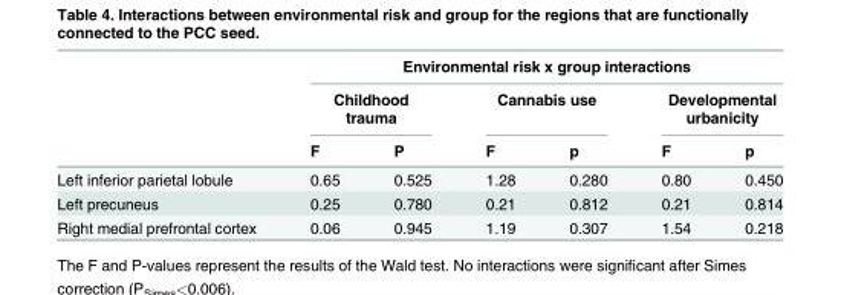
<table><thead><tr><td rowspan="3"></td><td colspan="6">Environmental risk x group interactions</td></tr><tr><td colspan="2">Childhood trauma</td><td colspan="2">Cannabis use</td><td colspan="2">Developmental urbanicity</td></tr><tr><td>F</td><td>P</td><td>F</td><td>p</td><td>F</td><td>p</td></tr></thead><tbody><tr><td>Left inferior parietal lobule</td><td>0.65</td><td>0.525</td><td>1.28</td><td>0.280</td><td>0.80</td><td>0.450</td></tr><tr><td>Left precuneus</td><td>0.25</td><td>0.780</td><td>0.21</td><td>0.812</td><td>0.21</td><td>0.814</td></tr><tr><td>Right medial prefrontal cortex</td><td>0.06</td><td>0.945</td><td>1.19</td><td>0.307</td><td>1.54</td><td>0.218</td></tr></tbody></table>